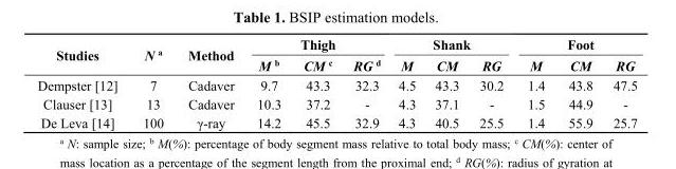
<table><thead><tr><td rowspan="2">Studies</td><td rowspan="2">N <sup>a</sup></td><td rowspan="2">Method</td><td colspan="3">Thigh</td><td colspan="3">Shank</td><td colspan="3">Foot</td></tr><tr><td>M <sup>b</sup></td><td>CM <sup>c</sup></td><td>RG <sup>d</sup></td><td>M</td><td>CM</td><td>RG</td><td>M</td><td>CM</td><td>RG</td></tr></thead><tbody><tr><td>Dempster [12]</td><td>7</td><td>Cadaver</td><td>9.7</td><td>43.3</td><td>32.3</td><td>4.5</td><td>43.3</td><td>30.2</td><td>1.4</td><td>43.8</td><td>47.5</td></tr><tr><td>Clauser [13]</td><td>13</td><td>Cadaver</td><td>10.3</td><td>37.2</td><td>-</td><td>4.3</td><td>37.1</td><td>-</td><td>1.5</td><td>44.9</td><td>-</td></tr><tr><td>De Leva [14]</td><td>100</td><td>γ-ray</td><td>14.2</td><td>45.5</td><td>32.9</td><td>4.3</td><td>40.5</td><td>25.5</td><td>1.4</td><td>55.9</td><td>25.7</td></tr></tbody></table>